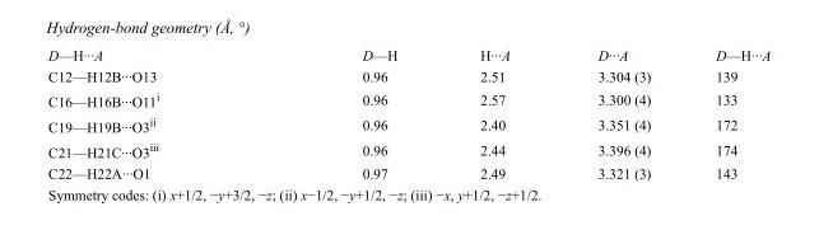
<table><tbody><tr><td>D—H···A</td><td>D—H</td><td>H···A</td><td>D···A</td><td>D—H···A</td></tr><tr><td>C12—H12B···O13</td><td>0.96</td><td>2.51</td><td>3.304 (3)</td><td>139</td></tr><tr><td>C16—H16B···O11<sup>i</sup></td><td>0.96</td><td>2.57</td><td>3.300 (4)</td><td>133</td></tr><tr><td>C19—H19B···O3<sup>ii</sup></td><td>0.96</td><td>2.40</td><td>3.351 (4)</td><td>172</td></tr><tr><td>C21—H21C···O3<sup>iii</sup></td><td>0.96</td><td>2.44</td><td>3.396 (4)</td><td>174</td></tr><tr><td>C22—H22A···O1</td><td>0.97</td><td>2.49</td><td>3.321 (3)</td><td>143</td></tr></tbody></table>